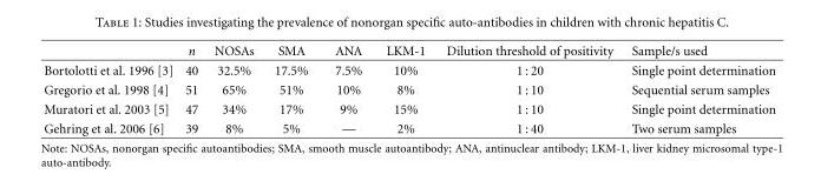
<table><thead><tr><td></td><td>n</td><td>NOSAs</td><td>SMA</td><td>ANA</td><td>LKM-1</td><td>Dilution threshold of positivity</td><td>Sample/s used</td></tr></thead><tbody><tr><td>Bortolotti et al. 1996 [3]</td><td>40</td><td>32.5%</td><td>17.5%</td><td>7.5%</td><td>10%</td><td>1 : 20</td><td>Single point determination</td></tr><tr><td>Gregorio et al. 1998 [4]</td><td>51</td><td>65%</td><td>51%</td><td>10%</td><td>8%</td><td>1 : 10</td><td>Sequential serum samples</td></tr><tr><td>Muratori et al. 2003 [5]</td><td>47</td><td>34%</td><td>17%</td><td>9%</td><td>15%</td><td>1 : 10</td><td>Single point determination</td></tr><tr><td>Gehring et al. 2006 [6]</td><td>39</td><td>8%</td><td>5%</td><td>—</td><td>2%</td><td>1 : 40</td><td>Two serum samples</td></tr></tbody></table>